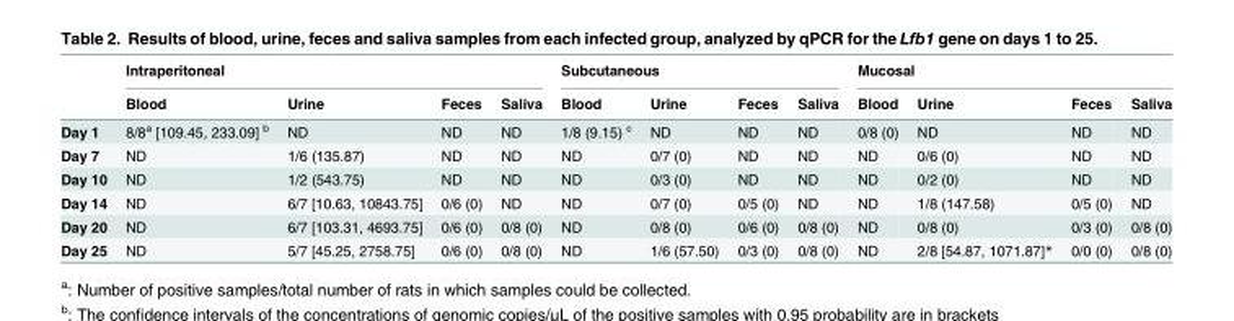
<table><thead><tr><td rowspan="2"></td><td colspan="4">Intraperitoneal</td><td colspan="4">Subcutaneous</td><td colspan="4">Mucosal</td></tr><tr><td>Blood</td><td>Urine</td><td>Feces</td><td>Saliva</td><td>Blood</td><td>Urine</td><td>Feces</td><td>Saliva</td><td>Blood</td><td>Urine</td><td>Feces</td><td>Saliva</td></tr></thead><tbody><tr><td>Day 1</td><td>8/8<sup>a</sup> [109.45, 233.09] <sup>b</sup></td><td>ND</td><td>ND</td><td>ND</td><td>1/8 (9.15) <sup>c</sup></td><td>ND</td><td>ND</td><td>ND</td><td>0/8 (0)</td><td>ND</td><td>ND</td><td>ND</td></tr><tr><td>Day 7</td><td>ND</td><td>1/6 (135.87)</td><td>ND</td><td>ND</td><td>ND</td><td>0/7 (0)</td><td>ND</td><td>ND</td><td>ND</td><td>0/6 (0)</td><td>ND</td><td>ND</td></tr><tr><td>Day 10</td><td>ND</td><td>1/2 (543.75)</td><td>ND</td><td>ND</td><td>ND</td><td>0/3 (0)</td><td>ND</td><td>ND</td><td>ND</td><td>0/2 (0)</td><td>ND</td><td>ND</td></tr><tr><td>Day 14</td><td>ND</td><td>6/7 [10.63, 10843.75]</td><td>0/6 (0)</td><td>ND</td><td>ND</td><td>0/7 (0)</td><td>0/5 (0)</td><td>ND</td><td>ND</td><td>1/8 (147.58)</td><td>0/5 (0)</td><td>ND</td></tr><tr><td>Day 20</td><td>ND</td><td>6/7 [103.31, 4693.75]</td><td>0/6 (0)</td><td>0/8 (0)</td><td>ND</td><td>0/8 (0)</td><td>0/6 (0)</td><td>0/8 (0)</td><td>ND</td><td>0/8 (0)</td><td>0/3 (0)</td><td>0/8 (0)</td></tr><tr><td>Day 25</td><td>ND</td><td>5/7 [45.25, 2758.75]</td><td>0/6 (0)</td><td>0/8 (0)</td><td>ND</td><td>1/6 (57.50)</td><td>0/3 (0)</td><td>0/8 (0)</td><td>ND</td><td>2/8 [54.87, 1071.87]*</td><td>0/0 (0)</td><td>0/8 (0)</td></tr></tbody></table>